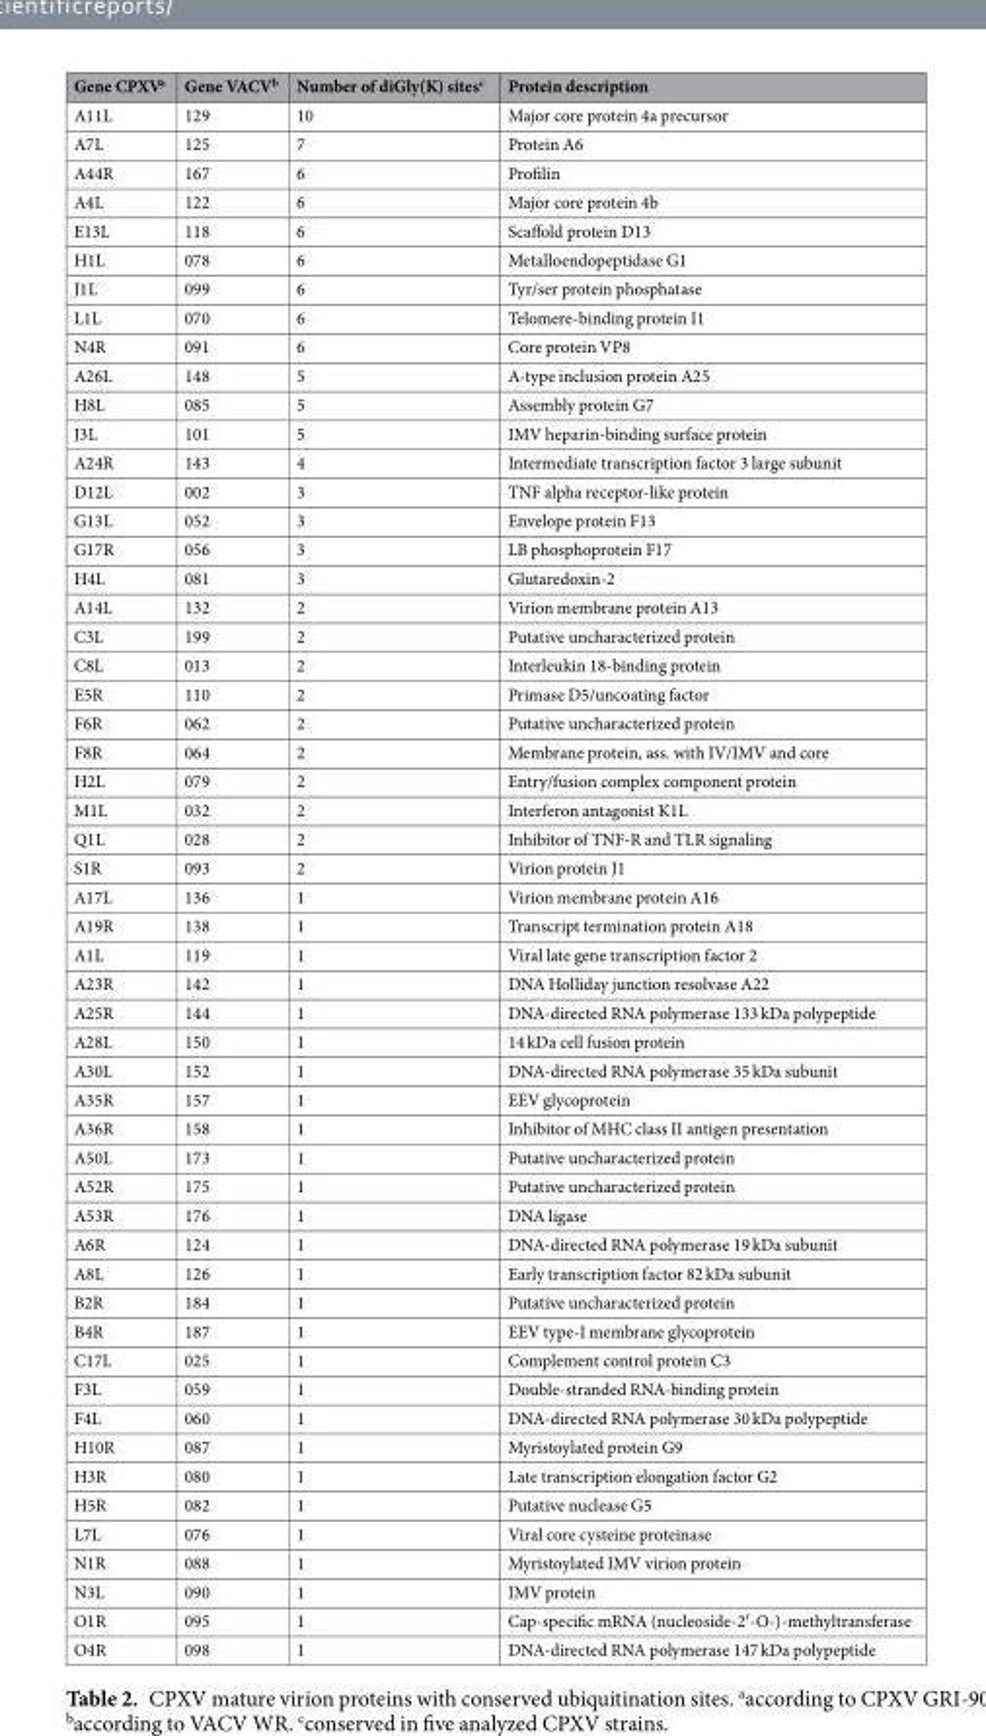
<table><thead><tr><td>Gene CPXV<sup>a</sup></td><td>Gene VACV<sup>b</sup></td><td>Number of diGly(K) sites<sup>c</sup></td><td>Protein description</td></tr></thead><tbody><tr><td>A11L</td><td>129</td><td>10</td><td>Major core protein 4a precursor</td></tr><tr><td>A7L</td><td>125</td><td>7</td><td>Protein A6</td></tr><tr><td>A44R</td><td>167</td><td>6</td><td>Profilin</td></tr><tr><td>A4L</td><td>122</td><td>6</td><td>Major core protein 4b</td></tr><tr><td>E13L</td><td>118</td><td>6</td><td>Scaffold protein D13</td></tr><tr><td>H1L</td><td>078</td><td>6</td><td>Metalloendopeptidase G1</td></tr><tr><td>J1L</td><td>099</td><td>6</td><td>Tyr/ser protein phosphatase</td></tr><tr><td>L1L</td><td>070</td><td>6</td><td>Telomere-binding protein I1</td></tr><tr><td>N4R</td><td>091</td><td>6</td><td>Core protein VP8</td></tr><tr><td>A26L</td><td>148</td><td>5</td><td>A-type inclusion protein A25</td></tr><tr><td>H8L</td><td>085</td><td>5</td><td>Assembly protein G7</td></tr><tr><td>J3L</td><td>101</td><td>5</td><td>IMV heparin-binding surface protein</td></tr><tr><td>A24R</td><td>143</td><td>4</td><td>Intermediate transcription factor 3 large subunit</td></tr><tr><td>D12L</td><td>002</td><td>3</td><td>TNF alpha receptor-like protein</td></tr><tr><td>G13L</td><td>052</td><td>3</td><td>Envelope protein F13</td></tr><tr><td>G17R</td><td>056</td><td>3</td><td>LB phosphoprotein F17</td></tr><tr><td>H4L</td><td>081</td><td>3</td><td>Glutaredoxin-2</td></tr><tr><td>A14L</td><td>132</td><td>2</td><td>Virion membrane protein A13</td></tr><tr><td>C3L</td><td>199</td><td>2</td><td>Putative uncharacterized protein</td></tr><tr><td>C8L</td><td>013</td><td>2</td><td>Interleukin 18-binding protein</td></tr><tr><td>E5R</td><td>110</td><td>2</td><td>Primase D5/uncoating factor</td></tr><tr><td>F6R</td><td>062</td><td>2</td><td>Putative uncharacterized protein</td></tr><tr><td>F8R</td><td>064</td><td>2</td><td>Membrane protein, ass. with IV/IMV and core</td></tr><tr><td>H2L</td><td>079</td><td>2</td><td>Entry/fusion complex component protein</td></tr><tr><td>M1L</td><td>032</td><td>2</td><td>Interferon antagonist K1L</td></tr><tr><td>Q1L</td><td>028</td><td>2</td><td>Inhibitor of TNF-R and TLR signaling</td></tr><tr><td>S1R</td><td>093</td><td>2</td><td>Virion protein J1</td></tr><tr><td>A17L</td><td>136</td><td>1</td><td>Virion membrane protein A16</td></tr><tr><td>A19R</td><td>138</td><td>1</td><td>Transcript termination protein A18</td></tr><tr><td>A1L</td><td>119</td><td>1</td><td>Viral late gene transcription factor 2</td></tr><tr><td>A23R</td><td>142</td><td>1</td><td>DNA Holliday junction resolvase A22</td></tr><tr><td>A25R</td><td>144</td><td>1</td><td>DNA-directed RNA polymerase 133 kDa polypeptide</td></tr><tr><td>A28L</td><td>150</td><td>1</td><td>14 kDa cell fusion protein</td></tr><tr><td>A30L</td><td>152</td><td>1</td><td>DNA-directed RNA polymerase 35 kDa subunit</td></tr><tr><td>A35R</td><td>157</td><td>1</td><td>EEV glycoprotein</td></tr><tr><td>A36R</td><td>158</td><td>1</td><td>Inhibitor of MHC class II antigen presentation</td></tr><tr><td>A50L</td><td>173</td><td>1</td><td>Putative uncharacterized protein</td></tr><tr><td>A52R</td><td>175</td><td>1</td><td>Putative uncharacterized protein</td></tr><tr><td>A53R</td><td>176</td><td>1</td><td>DNA ligase</td></tr><tr><td>A6R</td><td>124</td><td>1</td><td>DNA-directed RNA polymerase 19 kDa subunit</td></tr><tr><td>A8L</td><td>126</td><td>1</td><td>Early transcription factor 82 kDa subunit</td></tr><tr><td>B2R</td><td>184</td><td>1</td><td>Putative uncharacterized protein</td></tr><tr><td>B4R</td><td>187</td><td>1</td><td>EEV type-I membrane glycoprotein</td></tr><tr><td>C17L</td><td>025</td><td>1</td><td>Complement control protein C3</td></tr><tr><td>F3L</td><td>059</td><td>1</td><td>Double-stranded RNA-binding protein</td></tr><tr><td>F4L</td><td>060</td><td>1</td><td>DNA-directed RNA polymerase 30 kDa polypeptide</td></tr><tr><td>H10R</td><td>087</td><td>1</td><td>Myristoylated protein G9</td></tr><tr><td>H3R</td><td>080</td><td>1</td><td>Late transcription elongation factor G2</td></tr><tr><td>H5R</td><td>082</td><td>1</td><td>Putative nuclease G5</td></tr><tr><td>L7L</td><td>076</td><td>1</td><td>Viral core cysteine proteinase</td></tr><tr><td>N1R</td><td>088</td><td>1</td><td>Myristoylated IMV virion protein</td></tr><tr><td>N3L</td><td>090</td><td>1</td><td>IMV protein</td></tr><tr><td>O1R</td><td>095</td><td>1</td><td>Cap-specific mRNA (nucleoside-2′-O-)-methyltransferase</td></tr><tr><td>O4R</td><td>098</td><td>1</td><td>DNA-directed RNA polymerase 147 kDa polypeptide</td></tr></tbody></table>